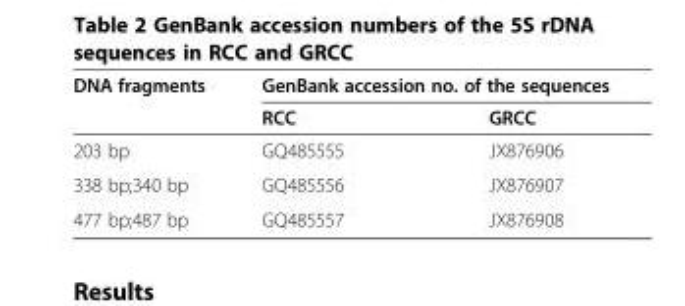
<table><thead><tr><td rowspan="2">DNA fragments</td><td colspan="2">GenBank accession no. of the sequences</td></tr><tr><td>RCC</td><td>GRCC</td></tr></thead><tbody><tr><td>203 bp</td><td>GQ485555</td><td>JX876906</td></tr><tr><td>338 bp;340 bp</td><td>GQ485556</td><td>JX876907</td></tr><tr><td>477 bp;487 bp</td><td>GQ485557</td><td>JX876908</td></tr></tbody></table>